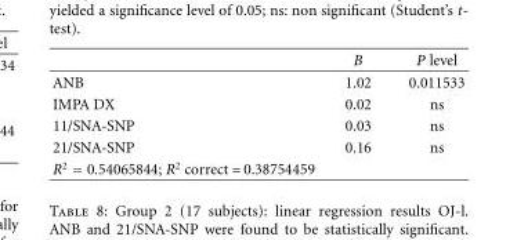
<table><thead><tr><td></td><td>B</td><td>P level</td></tr></thead><tbody><tr><td>ANB</td><td>1.02</td><td>0.011533</td></tr><tr><td>IMPA DX</td><td>0.02</td><td>ns</td></tr><tr><td>11/SNA-SNP</td><td>0.03</td><td>ns</td></tr><tr><td>21/SNA-SNP</td><td>0.16</td><td>ns</td></tr><tr><td>R<sup>2</sup> = 0.54065844; R<sup>2</sup> correct = 0.38754459</td><td></td><td></td></tr></tbody></table>